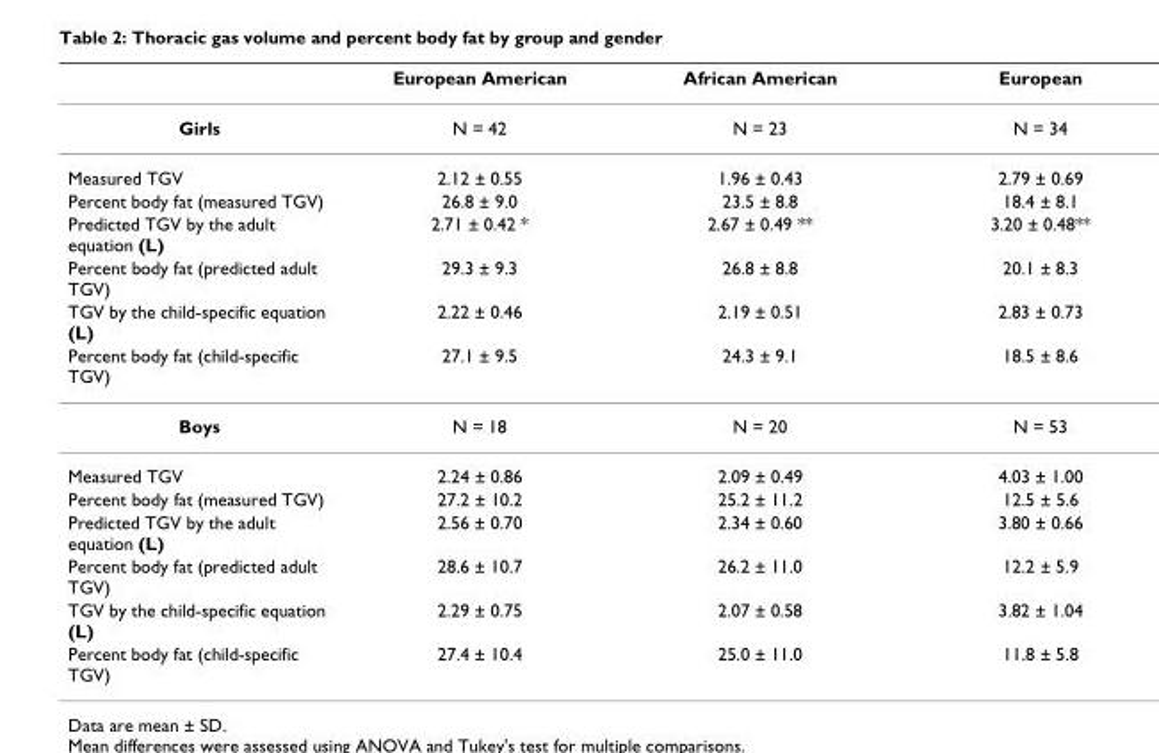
<table><thead><tr><td></td><td>European American</td><td>African American</td><td>European</td></tr></thead><tbody><tr><td>Girls</td><td>N = 42</td><td>N = 23</td><td>N = 34</td></tr><tr><td>Measured TGV</td><td>2.12 ± 0.55</td><td>1.96 ± 0.43</td><td>2.79 ± 0.69</td></tr><tr><td>Percent body fat (measured TGV)</td><td>26.8 ± 9.0</td><td>23.5 ± 8.8</td><td>18.4 ± 8.1</td></tr><tr><td>Predicted TGV by the adult equation (L)</td><td>2.71 ± 0.42 *</td><td>2.67 ± 0.49 **</td><td>3.20 ± 0.48**</td></tr><tr><td>Percent body fat (predicted adult TGV)</td><td>29.3 ± 9.3</td><td>26.8 ± 8.8</td><td>20.1 ± 8.3</td></tr><tr><td>TGV by the child-specific equation (L)</td><td>2.22 ± 0.46</td><td>2.19 ± 0.51</td><td>2.83 ± 0.73</td></tr><tr><td>Percent body fat (child-specific TGV)</td><td>27.1 ± 9.5</td><td>24.3 ± 9.1</td><td>18.5 ± 8.6</td></tr><tr><td>Boys</td><td>N = 18</td><td>N = 20</td><td>N = 53</td></tr><tr><td>Measured TGV</td><td>2.24 ± 0.86</td><td>2.09 ± 0.49</td><td>4.03 ± 1.00</td></tr><tr><td>Percent body fat (measured TGV)</td><td>27.2 ± 10.2</td><td>25.2 ± 11.2</td><td>12.5 ± 5.6</td></tr><tr><td>Predicted TGV by the adult equation (L)</td><td>2.56 ± 0.70</td><td>2.34 ± 0.60</td><td>3.80 ± 0.66</td></tr><tr><td>Percent body fat (predicted adult TGV)</td><td>28.6 ± 10.7</td><td>26.2 ± 11.0</td><td>12.2 ± 5.9</td></tr><tr><td>TGV by the child-specific equation (L)</td><td>2.29 ± 0.75</td><td>2.07 ± 0.58</td><td>3.82 ± 1.04</td></tr><tr><td>Percent body fat (child-specific TGV)</td><td>27.4 ± 10.4</td><td>25.0 ± 11.0</td><td>11.8 ± 5.8</td></tr></tbody></table>